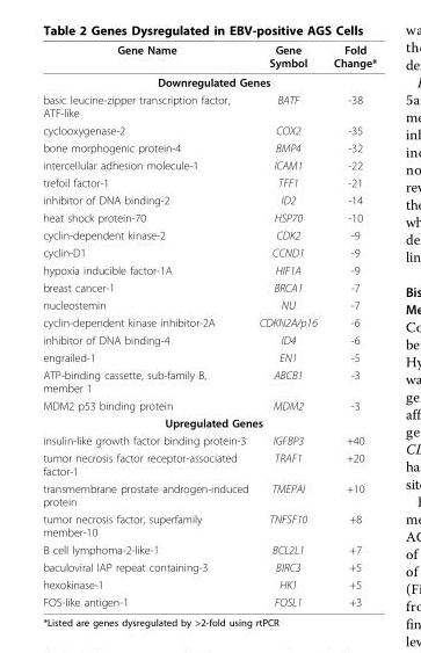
<table><thead><tr><td>Gene Name</td><td>Gene Symbol</td><td>Fold Change*</td></tr></thead><tbody><tr><td colspan="3">Downregulated Genes</td></tr><tr><td>basic leucine-zipper transcription factor, ATF-like</td><td>BATF</td><td>-38</td></tr><tr><td>cyclooxygenase-2</td><td>COX2</td><td>-35</td></tr><tr><td>bone morphogenic protein-4</td><td>BMP4</td><td>-32</td></tr><tr><td>intercellular adhesion molecule-1</td><td>ICAM1</td><td>-22</td></tr><tr><td>trefoil factor-1</td><td>TFF1</td><td>-21</td></tr><tr><td>inhibitor of DNA binding-2</td><td>ID2</td><td>-14</td></tr><tr><td>heat shock protein-70</td><td>HSP70</td><td>-10</td></tr><tr><td>cyclin-dependent kinase-2</td><td>CDK2</td><td>-9</td></tr><tr><td>cyclin-D1</td><td>CCND1</td><td>-9</td></tr><tr><td>hypoxia inducible factor-1A</td><td>HIF1A</td><td>-9</td></tr><tr><td>breast cancer-1</td><td>BRCA1</td><td>-7</td></tr><tr><td>nucleostemin</td><td>NU</td><td>-7</td></tr><tr><td>cyclin-dependent kinase inhibitor-2A</td><td>CDKN2A/p16</td><td>-6</td></tr><tr><td>inhibitor of DNA binding-4</td><td>ID4</td><td>-6</td></tr><tr><td>engrailed-1</td><td>EN1</td><td>-5</td></tr><tr><td>ATP-binding cassette, sub-family B, member 1</td><td>ABCB1</td><td>-3</td></tr><tr><td>MDM2 p53 binding protein</td><td>MDM2</td><td>-3</td></tr><tr><td colspan="3">Upregulated Genes</td></tr><tr><td>insulin-like growth factor binding protein-3</td><td>IGFBP3</td><td>+40</td></tr><tr><td>tumor necrosis factor receptor-associated factor-1</td><td>TRAF1</td><td>+20</td></tr><tr><td>transmembrane prostate androgen-induced protein</td><td>TMEPAI</td><td>+10</td></tr><tr><td>tumor necrosis factor, superfamily member-10</td><td>TNFSF10</td><td>+8</td></tr><tr><td>B cell lymphoma-2-like-1</td><td>BCL2L1</td><td>+7</td></tr><tr><td>baculoviral IAP repeat containing-3</td><td>BIRC3</td><td>+5</td></tr><tr><td>hexokinase-1</td><td>HK1</td><td>+5</td></tr><tr><td>FOS-like antigen-1</td><td>FOSL1</td><td>+3</td></tr></tbody></table>